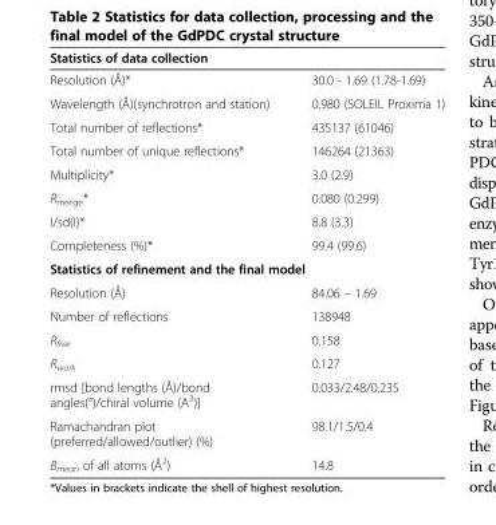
<table><thead><tr><td colspan="2">Statistics of data collection</td></tr><tr><td>Resolution (Å)*</td><td>30.0 - 1.69 (1.78-1.69)</td></tr></thead><tbody><tr><td>Wavelength (Å)(synchrotron and station)</td><td>0.980 (SOLEIL Proxima 1)</td></tr><tr><td>Total number of reflections*</td><td>435137 (61046)</td></tr><tr><td>Total number of unique reflections*</td><td>146264 (21363)</td></tr><tr><td>Multiplicity*</td><td>3.0 (2.9)</td></tr><tr><td>R<sub>merge</sub>*</td><td>0.080 (0.299)</td></tr><tr><td>I/sd(I)*</td><td>8.8 (3.3)</td></tr><tr><td>Completeness (%)*</td><td>99.4 (99.6)</td></tr><tr><td colspan="2">Statistics of refinement and the final model</td></tr><tr><td>Resolution (Å)</td><td>84.06 – 1.69</td></tr><tr><td>Number of reflections</td><td>138948</td></tr><tr><td>R<sub>free</sub></td><td>0.158</td></tr><tr><td>R<sub>work</sub></td><td>0.127</td></tr><tr><td>rmsd [bond lengths (Å)/bond angles(°)/chiral volume (A<sup>3</sup>)]</td><td>0.033/2.48/0.235</td></tr><tr><td>Ramachandran plot (preferred/allowed/outlier) (%)</td><td>98.1/1.5/0.4</td></tr><tr><td>B<sub>mean</sub> of all atoms (Å<sup>2</sup>)</td><td>14.8</td></tr></tbody></table>